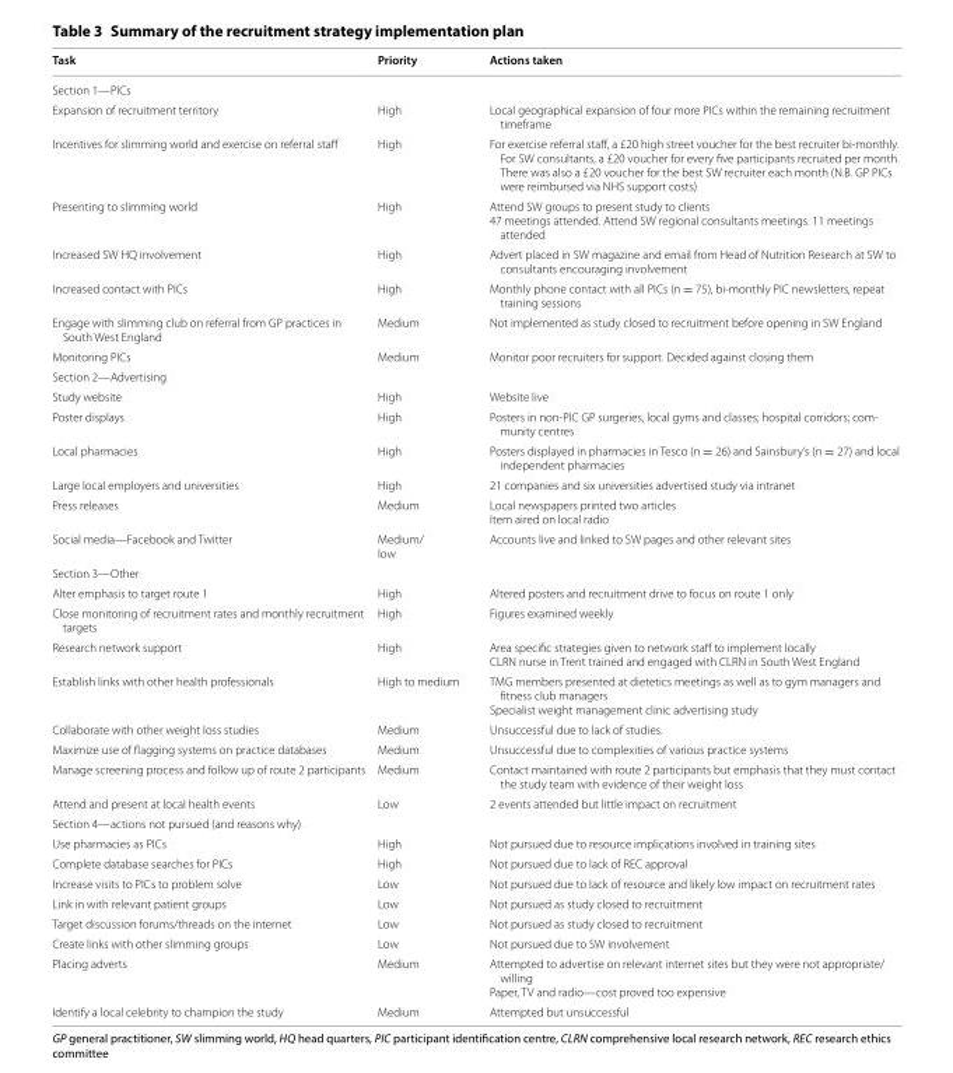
<table><thead><tr><td>Task</td><td>Priority</td><td>Actions taken</td></tr></thead><tbody><tr><td colspan="3">Section 1—PICs</td></tr><tr><td>Expansion of recruitment territory</td><td>High</td><td>Local geographical expansion of four more PICs within the remaining recruitment timeframe</td></tr><tr><td>Incentives for slimming world and exercise on referral staff</td><td>High</td><td>For exercise referral staff, a £20 high street voucher for the best recruiter bi-monthly. For SW consultants, a £20 voucher for every five participants recruited per month. There was also a £20 voucher for the best SW recruiter each month (N.B. GP PICs were reimbursed via NHS support costs)</td></tr><tr><td>Presenting to slimming world</td><td>High</td><td>Attend SW groups to present study to clients 47 meetings attended. Attend SW regional consultants meetings. 11 meetings attended</td></tr><tr><td>Increased SW HQ involvement</td><td>High</td><td>Advert placed in SW magazine and email from Head of Nutrition Research at SW to consultants encouraging involvement</td></tr><tr><td>Increased contact with PICs</td><td>High</td><td>Monthly phone contact with all PICs (n = 75), bi-monthly PIC newsletters, repeat training sessions</td></tr><tr><td>Engage with slimming club on referral from GP practices in South West England</td><td>Medium</td><td>Not implemented as study closed to recruitment before opening in SW England</td></tr><tr><td>Monitoring PICs</td><td>Medium</td><td>Monitor poor recruiters for support. Decided against closing them</td></tr><tr><td colspan="3">Section 2—Advertising</td></tr><tr><td>Study website</td><td>High</td><td>Website live</td></tr><tr><td>Poster displays</td><td>High</td><td>Posters in non-PIC GP surgeries, local gyms and classes; hospital corridors; com- munity centres</td></tr><tr><td>Local pharmacies</td><td>High</td><td>Posters displayed in pharmacies in Tesco (n = 26) and Sainsbury’s (n = 27) and local independent pharmacies</td></tr><tr><td>Large local employers and universities</td><td>High</td><td>21 companies and six universities advertised study via intranet</td></tr><tr><td>Press releases</td><td>Medium</td><td>Local newspapers printed two articles Item aired on local radio</td></tr><tr><td>Social media—Facebook and Twitter</td><td>Medium/ low</td><td>Accounts live and linked to SW pages and other relevant sites</td></tr><tr><td colspan="3">Section 3—Other</td></tr><tr><td>Alter emphasis to target route 1</td><td>High</td><td>Altered posters and recruitment drive to focus on route 1 only</td></tr><tr><td>Close monitoring of recruitment rates and monthly recruitment targets</td><td>High</td><td>Figures examined weekly</td></tr><tr><td>Research network support</td><td>High</td><td>Area specific strategies given to network staff to implement locally CLRN nurse in Trent trained and engaged with CLRN in South West England</td></tr><tr><td>Establish links with other health professionals</td><td>High to medium</td><td>TMG members presented at dietetics meetings as well as to gym managers and fitness club managers Specialist weight management clinic advertising study</td></tr><tr><td>Collaborate with other weight loss studies</td><td>Medium</td><td>Unsuccessful due to lack of studies.</td></tr><tr><td>Maximize use of flagging systems on practice databases</td><td>Medium</td><td>Unsuccessful due to complexities of various practice systems</td></tr><tr><td>Manage screening process and follow up of route 2 participants</td><td>Medium</td><td>Contact maintained with route 2 participants but emphasis that they must contact the study team with evidence of their weight loss</td></tr><tr><td>Attend and present at local health events</td><td>Low</td><td>2 events attended but little impact on recruitment</td></tr><tr><td colspan="3">Section 4—actions not pursued (and reasons why)</td></tr><tr><td>Use pharmacies as PICs</td><td>High</td><td>Not pursued due to resource implications involved in training sites</td></tr><tr><td>Complete database searches for PICs</td><td>High</td><td>Not pursued due to lack of REC approval</td></tr><tr><td>Increase visits to PICs to problem solve</td><td>Low</td><td>Not pursued due to lack of resource and likely low impact on recruitment rates</td></tr><tr><td>Link in with relevant patient groups</td><td>Low</td><td>Not pursued as study closed to recruitment</td></tr><tr><td>Target discussion forums/threads on the internet</td><td>Low</td><td>Not pursued as study closed to recruitment</td></tr><tr><td>Create links with other slimming groups</td><td>Low</td><td>Not pursued due to SW involvement</td></tr><tr><td>Placing adverts</td><td>Medium</td><td>Attempted to advertise on relevant internet sites but they were not appropriate/ willing Paper, TV and radio—cost proved too expensive</td></tr><tr><td>Identify a local celebrity to champion the study</td><td>Medium</td><td>Attempted but unsuccessful</td></tr></tbody></table>